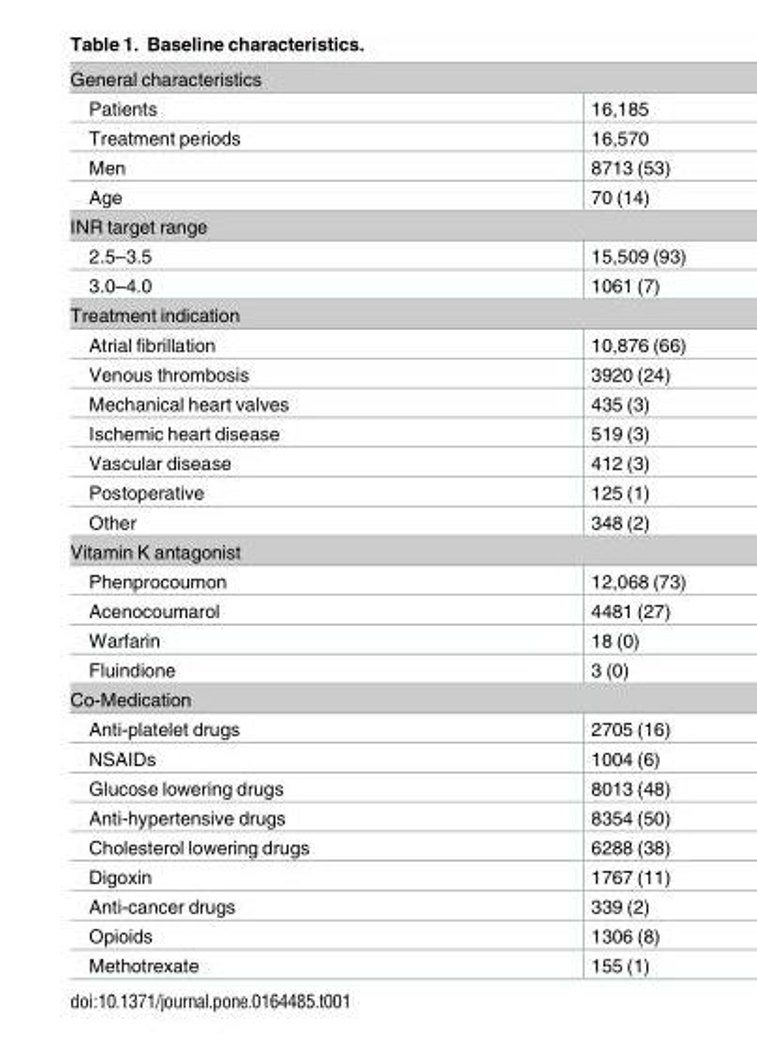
<table><tbody><tr><td colspan="2">General characteristics</td></tr><tr><td>Patients</td><td>16,185</td></tr><tr><td>Treatment periods</td><td>16,570</td></tr><tr><td>Men</td><td>8713 (53)</td></tr><tr><td>Age</td><td>70 (14)</td></tr><tr><td colspan="2">INR target range</td></tr><tr><td>2.5–3.5</td><td>15,509 (93)</td></tr><tr><td>3.0–4.0</td><td>1061 (7)</td></tr><tr><td colspan="2">Treatment indication</td></tr><tr><td>Atrial fibrillation</td><td>10,876 (66)</td></tr><tr><td>Venous thrombosis</td><td>3920 (24)</td></tr><tr><td>Mechanical heart valves</td><td>435 (3)</td></tr><tr><td>Ischemic heart disease</td><td>519 (3)</td></tr><tr><td>Vascular disease</td><td>412 (3)</td></tr><tr><td>Postoperative</td><td>125 (1)</td></tr><tr><td>Other</td><td>348 (2)</td></tr><tr><td colspan="2">Vitamin K antagonist</td></tr><tr><td>Phenprocoumon</td><td>12,068 (73)</td></tr><tr><td>Acenocoumarol</td><td>4481 (27)</td></tr><tr><td>Warfarin</td><td>18 (0)</td></tr><tr><td>Fluindione</td><td>3 (0)</td></tr><tr><td colspan="2">Co-Medication</td></tr><tr><td>Anti-platelet drugs</td><td>2705 (16)</td></tr><tr><td>NSAIDs</td><td>1004 (6)</td></tr><tr><td>Glucose lowering drugs</td><td>8013 (48)</td></tr><tr><td>Anti-hypertensive drugs</td><td>8354 (50)</td></tr><tr><td>Cholesterol lowering drugs</td><td>6288 (38)</td></tr><tr><td>Digoxin</td><td>1767 (11)</td></tr><tr><td>Anti-cancer drugs</td><td>339 (2)</td></tr><tr><td>Opioids</td><td>1306 (8)</td></tr><tr><td>Methotrexate</td><td>155 (1)</td></tr></tbody></table>